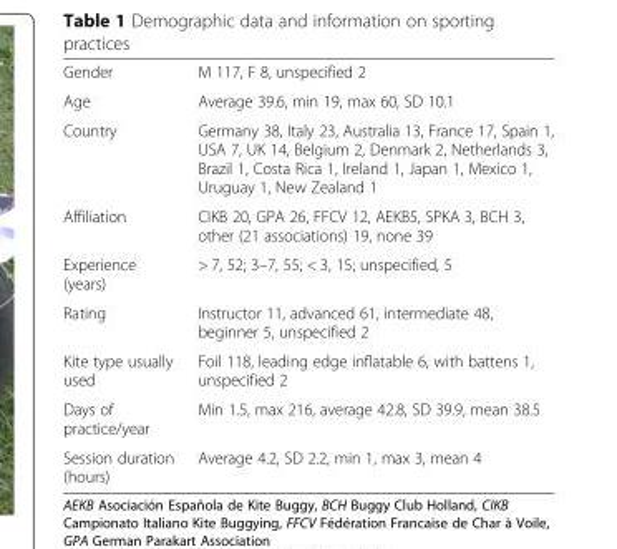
<table><tbody><tr><td>Gender</td><td>M 117, F 8, unspecified 2</td></tr><tr><td>Age</td><td>Average 39.6, min 19, max 60, SD 10.1</td></tr><tr><td>Country</td><td>Germany 38, Italy 23, Australia 13, France 17, Spain 1, USA 7, UK 14, Belgium 2, Denmark 2, Netherlands 3, Brazil 1, Costa Rica 1, Ireland 1, Japan 1, Mexico 1, Uruguay 1, New Zealand 1</td></tr><tr><td>Affiliation</td><td>CIKB 20, GPA 26, FFCV 12, AEKB5, SPKA 3, BCH 3, other (21 associations) 19, none 39</td></tr><tr><td>Experience (years)</td><td>&gt; 7, 52; 3–7, 55; &lt; 3, 15; unspecified, 5</td></tr><tr><td>Rating</td><td>Instructor 11, advanced 61, intermediate 48, beginner 5, unspecified 2</td></tr><tr><td>Kite type usually used</td><td>Foil 118, leading edge inflatable 6, with battens 1, unspecified 2</td></tr><tr><td>Days of practice/year</td><td>Min 1.5, max 216, average 42.8, SD 39.9, mean 38.5</td></tr><tr><td>Session duration (hours)</td><td>Average 4.2, SD 2.2, min 1, max 3, mean 4</td></tr></tbody></table>